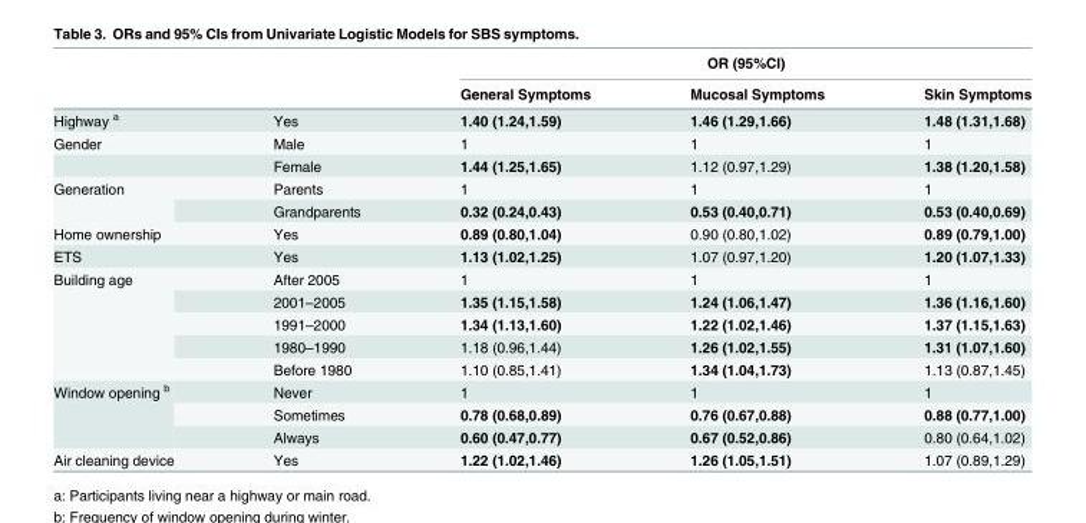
<table><thead><tr><td rowspan="2"></td><td rowspan="2"></td><td colspan="3">OR (95%CI)</td></tr><tr><td>General Symptoms</td><td>Mucosal Symptoms</td><td>Skin Symptoms</td></tr></thead><tbody><tr><td>Highway <sup>a</sup></td><td>Yes</td><td>1.40 (1.24,1.59)</td><td>1.46 (1.29,1.66)</td><td>1.48 (1.31,1.68)</td></tr><tr><td rowspan="2">Gender</td><td>Male</td><td>1</td><td>1</td><td>1</td></tr><tr><td>Female</td><td>1.44 (1.25,1.65)</td><td>1.12 (0.97,1.29)</td><td>1.38 (1.20,1.58)</td></tr><tr><td rowspan="2">Generation</td><td>Parents</td><td>1</td><td>1</td><td>1</td></tr><tr><td>Grandparents</td><td>0.32 (0.24,0.43)</td><td>0.53 (0.40,0.71)</td><td>0.53 (0.40,0.69)</td></tr><tr><td>Home ownership</td><td>Yes</td><td>0.89 (0.80,1.04)</td><td>0.90 (0.80,1.02)</td><td>0.89 (0.79,1.00)</td></tr><tr><td>ETS</td><td>Yes</td><td>1.13 (1.02,1.25)</td><td>1.07 (0.97,1.20)</td><td>1.20 (1.07,1.33)</td></tr><tr><td rowspan="5">Building age</td><td>After 2005</td><td>1</td><td>1</td><td>1</td></tr><tr><td>2001–2005</td><td>1.35 (1.15,1.58)</td><td>1.24 (1.06,1.47)</td><td>1.36 (1.16,1.60)</td></tr><tr><td>1991–2000</td><td>1.34 (1.13,1.60)</td><td>1.22 (1.02,1.46)</td><td>1.37 (1.15,1.63)</td></tr><tr><td>1980–1990</td><td>1.18 (0.96,1.44)</td><td>1.26 (1.02,1.55)</td><td>1.31 (1.07,1.60)</td></tr><tr><td>Before 1980</td><td>1.10 (0.85,1.41)</td><td>1.34 (1.04,1.73)</td><td>1.13 (0.87,1.45)</td></tr><tr><td rowspan="3">Window opening <sup>b</sup></td><td>Never</td><td>1</td><td>1</td><td>1</td></tr><tr><td>Sometimes</td><td>0.78 (0.68,0.89)</td><td>0.76 (0.67,0.88)</td><td>0.88 (0.77,1.00)</td></tr><tr><td>Always</td><td>0.60 (0.47,0.77)</td><td>0.67 (0.52,0.86)</td><td>0.80 (0.64,1.02)</td></tr><tr><td>Air cleaning device</td><td>Yes</td><td>1.22 (1.02,1.46)</td><td>1.26 (1.05,1.51)</td><td>1.07 (0.89,1.29)</td></tr></tbody></table>